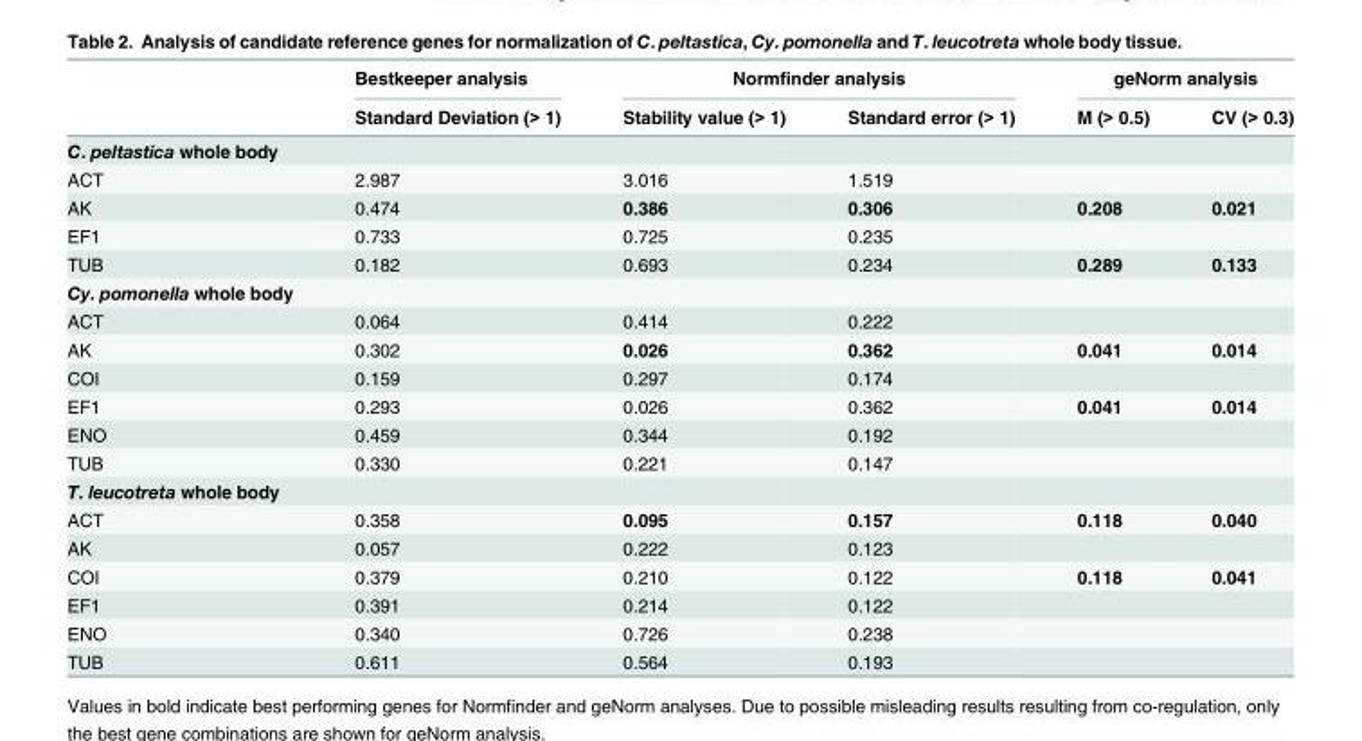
<table><thead><tr><td rowspan="2"></td><td rowspan="2">Bestkeeper analysis Standard Deviation (&gt; 1)</td><td colspan="2">Normfinder analysis</td><td colspan="2">geNorm analysis</td></tr><tr><td>Stability value (&gt; 1)</td><td>Standard error (&gt; 1)</td><td>M (&gt; 0.5)</td><td>CV (&gt; 0.3)</td></tr></thead><tbody><tr><td colspan="6">C. peltastica whole body</td></tr><tr><td>ACT</td><td>2.987</td><td>3.016</td><td>1.519</td><td></td><td></td></tr><tr><td>AK</td><td>0.474</td><td>0.386</td><td>0.306</td><td>0.208</td><td>0.021</td></tr><tr><td>EF1</td><td>0.733</td><td>0.725</td><td>0.235</td><td></td><td></td></tr><tr><td>TUB</td><td>0.182</td><td>0.693</td><td>0.234</td><td>0.289</td><td>0.133</td></tr><tr><td colspan="6">Cy. pomonella whole body</td></tr><tr><td>ACT</td><td>0.064</td><td>0.414</td><td>0.222</td><td></td><td></td></tr><tr><td>AK</td><td>0.302</td><td>0.026</td><td>0.362</td><td>0.041</td><td>0.014</td></tr><tr><td>COI</td><td>0.159</td><td>0.297</td><td>0.174</td><td></td><td></td></tr><tr><td>EF1</td><td>0.293</td><td>0.026</td><td>0.362</td><td>0.041</td><td>0.014</td></tr><tr><td>ENO</td><td>0.459</td><td>0.344</td><td>0.192</td><td></td><td></td></tr><tr><td>TUB</td><td>0.330</td><td>0.221</td><td>0.147</td><td></td><td></td></tr><tr><td colspan="6">T. leucotreta whole body</td></tr><tr><td>ACT</td><td>0.358</td><td>0.095</td><td>0.157</td><td>0.118</td><td>0.040</td></tr><tr><td>AK</td><td>0.057</td><td>0.222</td><td>0.123</td><td></td><td></td></tr><tr><td>COI</td><td>0.379</td><td>0.210</td><td>0.122</td><td>0.118</td><td>0.041</td></tr><tr><td>EF1</td><td>0.391</td><td>0.214</td><td>0.122</td><td></td><td></td></tr><tr><td>ENO</td><td>0.340</td><td>0.726</td><td>0.238</td><td></td><td></td></tr><tr><td>TUB</td><td>0.611</td><td>0.564</td><td>0.193</td><td></td><td></td></tr></tbody></table>